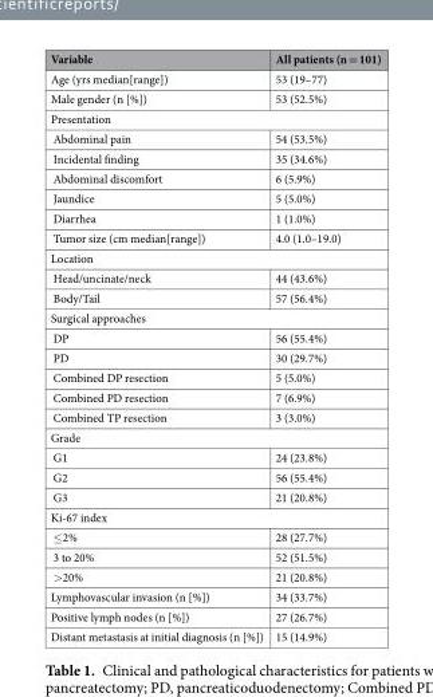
<table><thead><tr><td>Variable</td><td>All patients (n = 101)</td></tr></thead><tbody><tr><td>Age (yrs median[range])</td><td>53 (19–77)</td></tr><tr><td>Male gender (n [%])</td><td>53 (52.5%)</td></tr><tr><td colspan="2">Presentation</td></tr><tr><td>Abdominal pain</td><td>54 (53.5%)</td></tr><tr><td>Incidental finding</td><td>35 (34.6%)</td></tr><tr><td>Abdominal discomfort</td><td>6 (5.9%)</td></tr><tr><td>Jaundice</td><td>5 (5.0%)</td></tr><tr><td>Diarrhea</td><td>1 (1.0%)</td></tr><tr><td>Tumor size (cm median[range])</td><td>4.0 (1.0–19.0)</td></tr><tr><td colspan="2">Location</td></tr><tr><td>Head/uncinate/neck</td><td>44 (43.6%)</td></tr><tr><td>Body/Tail</td><td>57 (56.4%)</td></tr><tr><td colspan="2">Surgical approaches</td></tr><tr><td>DP</td><td>56 (55.4%)</td></tr><tr><td>PD</td><td>30 (29.7%)</td></tr><tr><td>Combined DP resection</td><td>5 (5.0%)</td></tr><tr><td>Combined PD resection</td><td>7 (6.9%)</td></tr><tr><td>Combined TP resection</td><td>3 (3.0%)</td></tr><tr><td colspan="2">Grade</td></tr><tr><td>G1</td><td>24 (23.8%)</td></tr><tr><td>G2</td><td>56 (55.4%)</td></tr><tr><td>G3</td><td>21 (20.8%)</td></tr><tr><td colspan="2">Ki-67 index</td></tr><tr><td>≤2%</td><td>28 (27.7%)</td></tr><tr><td>3 to 20%</td><td>52 (51.5%)</td></tr><tr><td>&gt;20%</td><td>21 (20.8%)</td></tr><tr><td>Lymphovascular invasion (n [%])</td><td>34 (33.7%)</td></tr><tr><td>Positive lymph nodes (n [%])</td><td>27 (26.7%)</td></tr><tr><td>Distant metastasis at initial diagnosis (n [%])</td><td>15 (14.9%)</td></tr></tbody></table>